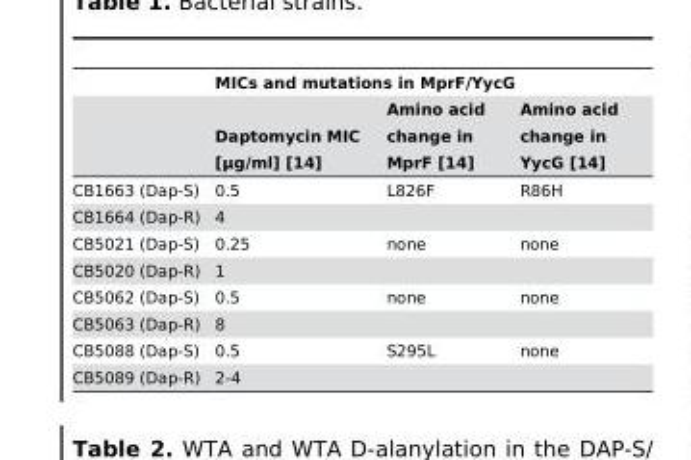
<table><thead><tr><td rowspan="2"></td><td colspan="3">MICs and mutations in MprF/YycG</td></tr><tr><td>Daptomycin MIC [µg/ml] [14]</td><td>Amino acid change in MprF [14]</td><td>Amino acid change in YycG [14]</td></tr></thead><tbody><tr><td>CB1663 (Dap-S)</td><td>0.5</td><td>L826F</td><td>R86H</td></tr><tr><td>CB1664 (Dap-R)</td><td>4</td><td></td><td></td></tr><tr><td>CB5021 (Dap-S)</td><td>0.25</td><td>none</td><td>none</td></tr><tr><td>CB5020 (Dap-R)</td><td>1</td><td></td><td></td></tr><tr><td>CB5062 (Dap-S)</td><td>0.5</td><td>none</td><td>none</td></tr><tr><td>CB5063 (Dap-R)</td><td>8</td><td></td><td></td></tr><tr><td>CB5088 (Dap-S)</td><td>0.5</td><td>S295L</td><td>none</td></tr><tr><td>CB5089 (Dap-R)</td><td>2-4</td><td></td><td></td></tr></tbody></table>